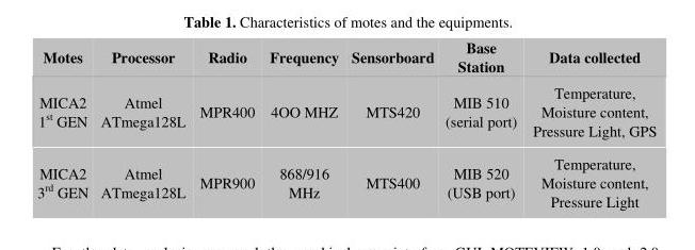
<table><thead><tr><td>Motes</td><td>Processor</td><td>Radio</td><td>Frequency</td><td>Sensorboard</td><td>Base Station</td><td>Data collected</td></tr></thead><tbody><tr><td>MICA2 1<sup>st</sup> GEN</td><td>Atmel ATmega128L</td><td>MPR400</td><td>4OO MHZ</td><td>MTS420</td><td>MIB 510 (serial port)</td><td>Temperature, Moisture content, Pressure Light, GPS</td></tr><tr><td>MICA2 3<sup>rd</sup> GEN</td><td>Atmel ATmega128L</td><td>MPR900</td><td>868/916 MHz</td><td>MTS400</td><td>MIB 520 (USB port)</td><td>Temperature, Moisture content, Pressure Light</td></tr></tbody></table>